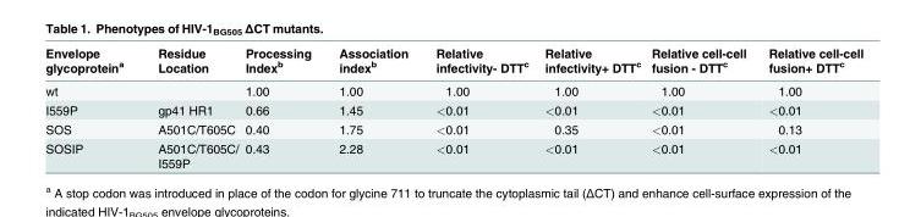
<table><thead><tr><td>Envelope glycoprotein<sup>a</sup></td><td>Residue Location</td><td>Processing Index<sup>b</sup></td><td>Association index<sup>b</sup></td><td>Relative infectivity- DTT<sup>c</sup></td><td>Relative infectivity+ DTT<sup>c</sup></td><td>Relative cell-cell fusion - DTT<sup>c</sup></td><td>Relative cell-cell fusion+ DTT<sup>c</sup></td></tr></thead><tbody><tr><td>wt</td><td></td><td>1.00</td><td>1.00</td><td>1.00</td><td>1.00</td><td>1.00</td><td>1.00</td></tr><tr><td>I559P</td><td>gp41 HR1</td><td>0.66</td><td>1.45</td><td>&lt;0.01</td><td>&lt;0.01</td><td>&lt;0.01</td><td>&lt;0.01</td></tr><tr><td>SOS</td><td>A501C/T605C</td><td>0.40</td><td>1.75</td><td>&lt;0.01</td><td>0.35</td><td>&lt;0.01</td><td>0.13</td></tr><tr><td>SOSIP</td><td>A501C/T605C/ I559P</td><td>0.43</td><td>2.28</td><td>&lt;0.01</td><td>&lt;0.01</td><td>&lt;0.01</td><td>&lt;0.01</td></tr></tbody></table>